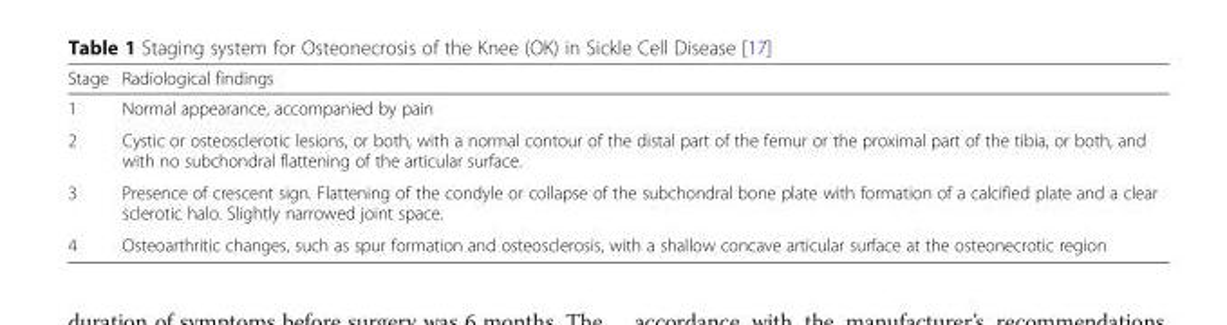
<table><thead><tr><td>Stage</td><td>Radiological findings</td></tr></thead><tbody><tr><td>1</td><td>Normal appearance, accompanied by pain</td></tr><tr><td>2</td><td>Cystic or osteosclerotic lesions, or both, with a normal contour of the distal part of the femur or the proximal part of the tibia, or both, and with no subchondral flattening of the articular surface.</td></tr><tr><td>3</td><td>Presence of crescent sign. Flattening of the condyle or collapse of the subchondral bone plate with formation of a calcified plate and a clear sclerotic halo. Slightly narrowed joint space.</td></tr><tr><td>4</td><td>Osteoarthritic changes, such as spur formation and osteosclerosis, with a shallow concave articular surface at the osteonecrotic region</td></tr></tbody></table>